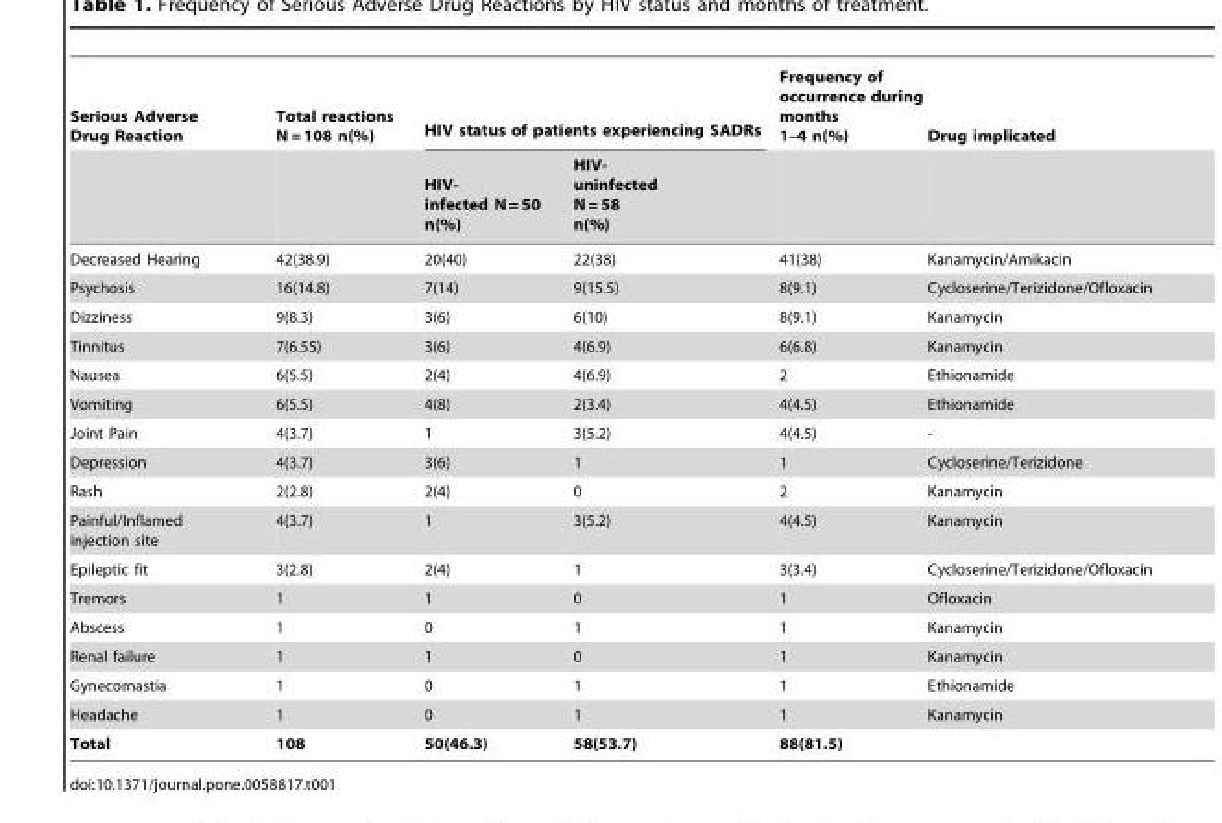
<table><thead><tr><td rowspan="2">Serious Adverse Drug Reaction</td><td rowspan="2">Total reactions N = 108 n(%)</td><td colspan="2">HIV status of patients experiencing SADRs</td><td rowspan="2">Frequency of occurrence during months 1–4 n(%)</td><td rowspan="2">Drug implicated</td></tr><tr><td>HIV- infected N = 50 n(%)</td><td>HIV- uninfected N = 58 n(%)</td></tr></thead><tbody><tr><td>Decreased Hearing</td><td>42(38.9)</td><td>20(40)</td><td>22(38)</td><td>41(38)</td><td>Kanamycin/Amikacin</td></tr><tr><td>Psychosis</td><td>16(14.8)</td><td>7(14)</td><td>9(15.5)</td><td>8(9.1)</td><td>Cycloserine/Terizidone/Ofloxacin</td></tr><tr><td>Dizziness</td><td>9(8.3)</td><td>3(6)</td><td>6(10)</td><td>8(9.1)</td><td>Kanamycin</td></tr><tr><td>Tinnitus</td><td>7(6.55)</td><td>3(6)</td><td>4(6.9)</td><td>6(6.8)</td><td>Kanamycin</td></tr><tr><td>Nausea</td><td>6(5.5)</td><td>2(4)</td><td>4(6.9)</td><td>2</td><td>Ethionamide</td></tr><tr><td>Vomiting</td><td>6(5.5)</td><td>4(8)</td><td>2(3.4)</td><td>4(4.5)</td><td>Ethionamide</td></tr><tr><td>Joint Pain</td><td>4(3.7)</td><td>1</td><td>3(5.2)</td><td>4(4.5)</td><td>-</td></tr><tr><td>Depression</td><td>4(3.7)</td><td>3(6)</td><td>1</td><td>1</td><td>Cycloserine/Terizidone</td></tr><tr><td>Rash</td><td>2(2.8)</td><td>2(4)</td><td>0</td><td>2</td><td>Kanamycin</td></tr><tr><td>Painful/Inflamed injection site</td><td>4(3.7)</td><td>1</td><td>3(5.2)</td><td>4(4.5)</td><td>Kanamycin</td></tr><tr><td>Epileptic fit</td><td>3(2.8)</td><td>2(4)</td><td>1</td><td>3(3.4)</td><td>Cycloserine/Terizidone/Ofloxacin</td></tr><tr><td>Tremors</td><td>1</td><td>1</td><td>0</td><td>1</td><td>Ofloxacin</td></tr><tr><td>Abscess</td><td>1</td><td>0</td><td>1</td><td>1</td><td>Kanamycin</td></tr><tr><td>Renal failure</td><td>1</td><td>1</td><td>0</td><td>1</td><td>Kanamycin</td></tr><tr><td>Gynecomastia</td><td>1</td><td>0</td><td>1</td><td>1</td><td>Ethionamide</td></tr><tr><td>Headache</td><td>1</td><td>0</td><td>1</td><td>1</td><td>Kanamycin</td></tr><tr><td>Total</td><td>108</td><td>50(46.3)</td><td>58(53.7)</td><td>88(81.5)</td><td></td></tr></tbody></table>